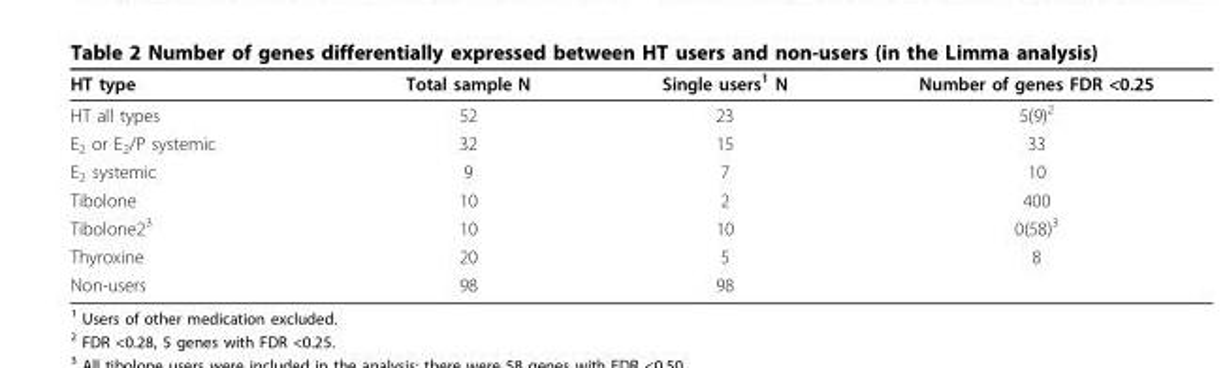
<table><thead><tr><td>HT type</td><td>Total sample N</td><td>Single users<sup>1</sup> N</td><td>Number of genes FDR &lt;0.25</td></tr></thead><tbody><tr><td>HT all types</td><td>52</td><td>23</td><td>5(9)<sup>2</sup></td></tr><tr><td>E<sub>2</sub> or E<sub>2</sub>/P systemic</td><td>32</td><td>15</td><td>33</td></tr><tr><td>E<sub>2</sub> systemic</td><td>9</td><td>7</td><td>10</td></tr><tr><td>Tibolone</td><td>10</td><td>2</td><td>400</td></tr><tr><td>Tibolone2<sup>3</sup></td><td>10</td><td>10</td><td>0(58)<sup>3</sup></td></tr><tr><td>Thyroxine</td><td>20</td><td>5</td><td>8</td></tr><tr><td>Non-users</td><td>98</td><td>98</td><td></td></tr></tbody></table>